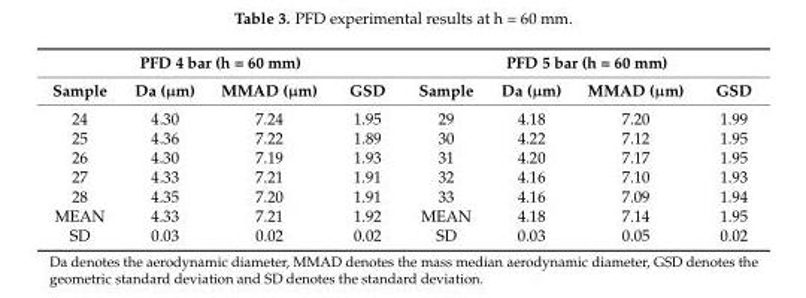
<table><thead><tr><td colspan="4">PFD 4 bar (h = 60 mm)</td><td colspan="4">PFD 5 bar (h = 60 mm)</td></tr><tr><td>Sample</td><td>Da (µm)</td><td>MMAD (µm)</td><td>GSD</td><td>Sample</td><td>Da (µm)</td><td>MMAD (µm)</td><td>GSD</td></tr></thead><tbody><tr><td>24</td><td>4.30</td><td>7.24</td><td>1.95</td><td>29</td><td>4.18</td><td>7.20</td><td>1.99</td></tr><tr><td>25</td><td>4.36</td><td>7.22</td><td>1.89</td><td>30</td><td>4.22</td><td>7.12</td><td>1.95</td></tr><tr><td>26</td><td>4.30</td><td>7.19</td><td>1.93</td><td>31</td><td>4.20</td><td>7.17</td><td>1.95</td></tr><tr><td>27</td><td>4.33</td><td>7.21</td><td>1.91</td><td>32</td><td>4.16</td><td>7.10</td><td>1.93</td></tr><tr><td>28</td><td>4.35</td><td>7.20</td><td>1.91</td><td>33</td><td>4.16</td><td>7.09</td><td>1.94</td></tr><tr><td>MEAN</td><td>4.33</td><td>7.21</td><td>1.92</td><td>MEAN</td><td>4.18</td><td>7.14</td><td>1.95</td></tr><tr><td>SD</td><td>0.03</td><td>0.02</td><td>0.02</td><td>SD</td><td>0.03</td><td>0.05</td><td>0.02</td></tr></tbody></table>